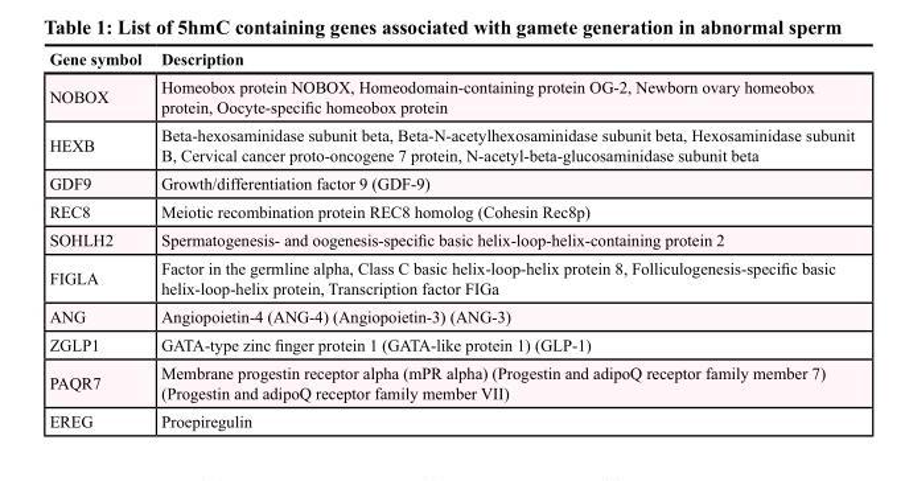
<table><thead><tr><td>Gene symbol</td><td>Description</td></tr></thead><tbody><tr><td>NOBOX</td><td>Homeobox protein NOBOX, Homeodomain-containing protein OG-2, Newborn ovary homeobox protein, Oocytespecific homeobox protein</td></tr><tr><td>HEXB</td><td>Beta-hexosaminidase subunit beta, Beta-N-acetylhexosaminidase subunit beta, Hexosaminidase subunit B, Cervical cancer proto-oncogene 7 protein, N-acetyl-beta-glucosaminidase subunit beta</td></tr><tr><td>GDF9</td><td>Growth/differentiation factor 9 (GDF-9)</td></tr><tr><td>REC8</td><td>Meiotic recombination protein REC8 homolog (Cohesin Rec8p)</td></tr><tr><td>SOHLH2</td><td>Spermatogenesis and oogenesisspecific basic helixloophelixcontaining protein 2</td></tr><tr><td>FIGLA</td><td>Factor in the germline alpha, Class C basic helixloophelix protein 8, Folliculogenesisspecific basic helixloophelix protein, Transcription factor FIGa</td></tr><tr><td>ANG</td><td>Angiopoietin-4 (ANG-4) (Angiopoietin-3) (ANG-3)</td></tr><tr><td>ZGLP1</td><td>GATAtype zinc finger protein 1 (GATAlike protein 1) (GLP1)</td></tr><tr><td>PAQR7</td><td>Membrane progestin receptor alpha (mPR alpha) (Progestin and adipoQ receptor family member 7) (Progestin and adipoQ receptor family member VII)</td></tr><tr><td>EREG</td><td>Proepiregulin</td></tr></tbody></table>